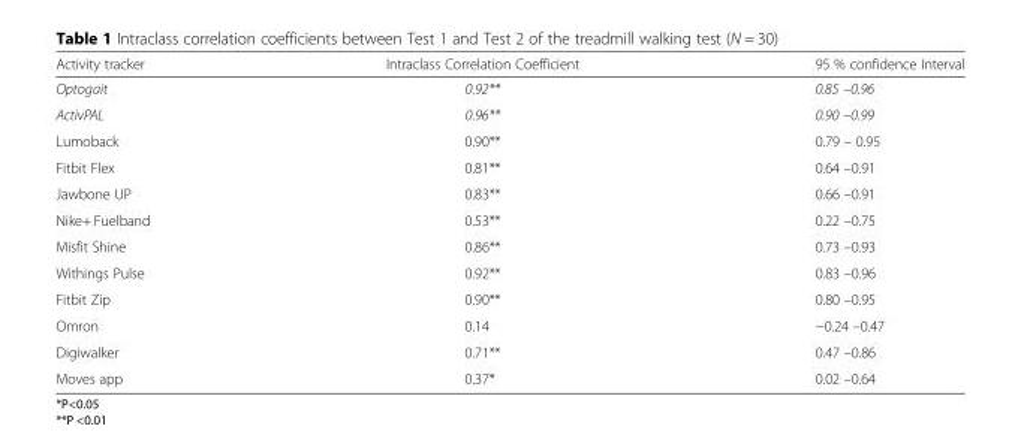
<table><thead><tr><td>Activity tracker</td><td>Intraclass Correlation Coefficient</td><td>95 % confidence Interval</td></tr></thead><tbody><tr><td>Optogait</td><td>0.92**</td><td>0.85 –0.96</td></tr><tr><td>ActivPAL</td><td>0.96**</td><td>0.90 –0.99</td></tr><tr><td>Lumoback</td><td>0.90**</td><td>0.79 – 0.95</td></tr><tr><td>Fitbit Flex</td><td>0.81**</td><td>0.64 –0.91</td></tr><tr><td>Jawbone UP</td><td>0.83**</td><td>0.66 –0.91</td></tr><tr><td>Nike+ Fuelband</td><td>0.53**</td><td>0.22 –0.75</td></tr><tr><td>Misfit Shine</td><td>0.86**</td><td>0.73 –0.93</td></tr><tr><td>Withings Pulse</td><td>0.92**</td><td>0.83 –0.96</td></tr><tr><td>Fitbit Zip</td><td>0.90**</td><td>0.80 –0.95</td></tr><tr><td>Omron</td><td>0.14</td><td>−0.24 –0.47</td></tr><tr><td>Digiwalker</td><td>0.71**</td><td>0.47 –0.86</td></tr><tr><td>Moves app</td><td>0.37*</td><td>0.02 –0.64</td></tr></tbody></table>